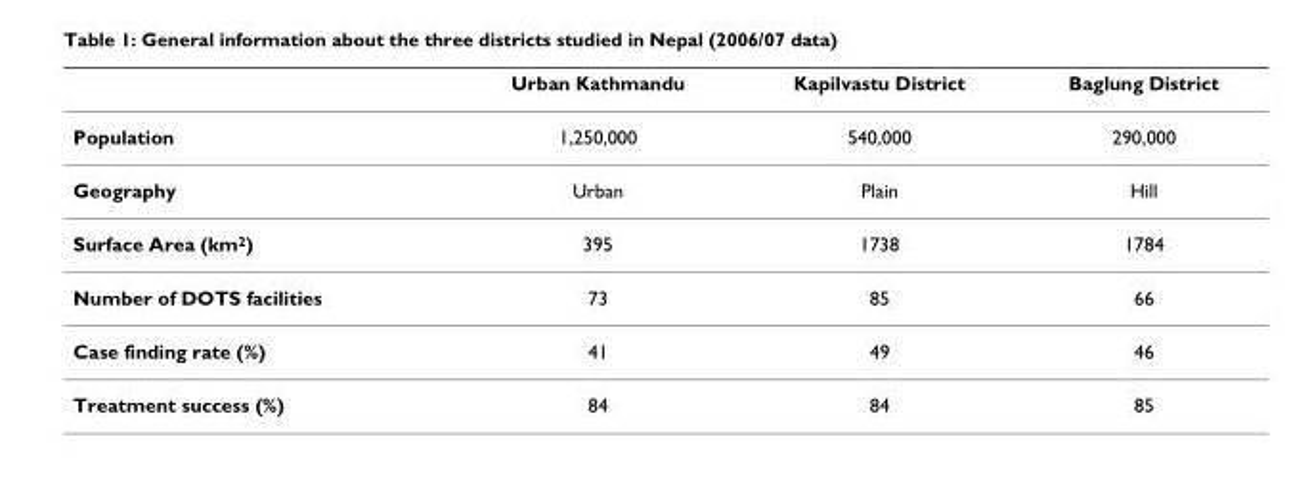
<table><thead><tr><td></td><td>Urban Kathmandu</td><td>Kapilvastu District</td><td>Baglung District</td></tr></thead><tbody><tr><td>Population</td><td>1,250,000</td><td>540,000</td><td>290,000</td></tr><tr><td>Geography</td><td>Urban</td><td>Plain</td><td>Hill</td></tr><tr><td>Surface Area (km<sup>2</sup>)</td><td>395</td><td>1738</td><td>1784</td></tr><tr><td>Number of DOTS facilities</td><td>73</td><td>85</td><td>66</td></tr><tr><td>Case finding rate (%)</td><td>41</td><td>49</td><td>46</td></tr><tr><td>Treatment success (%)</td><td>84</td><td>84</td><td>85</td></tr></tbody></table>